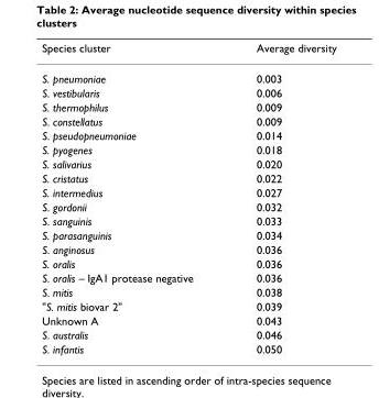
<table><thead><tr><td>Species cluster</td><td>Average diversity</td></tr></thead><tbody><tr><td>S. pneumoniae</td><td>0.003</td></tr><tr><td>S. vestibularis</td><td>0.006</td></tr><tr><td>S. thermophilus</td><td>0.009</td></tr><tr><td>S. constellatus</td><td>0.009</td></tr><tr><td>S. pseudopneumoniae</td><td>0.014</td></tr><tr><td>S. pyogenes</td><td>0.018</td></tr><tr><td>S. salivarius</td><td>0.020</td></tr><tr><td>S. cristatus</td><td>0.022</td></tr><tr><td>S. intermedius</td><td>0.027</td></tr><tr><td>S. gordonii</td><td>0.032</td></tr><tr><td>S. sanguinis</td><td>0.033</td></tr><tr><td>S. parasanguinis</td><td>0.034</td></tr><tr><td>S. anginosus</td><td>0.036</td></tr><tr><td>S. oralis</td><td>0.036</td></tr><tr><td>S. oralis – IgA1 protease negative</td><td>0.036</td></tr><tr><td>S. mitis</td><td>0.038</td></tr><tr><td>&quot;S. mitis biovar 2&quot;</td><td>0.039</td></tr><tr><td>Unknown A</td><td>0.043</td></tr><tr><td>S. australis</td><td>0.046</td></tr><tr><td>S. infantis</td><td>0.050</td></tr></tbody></table>